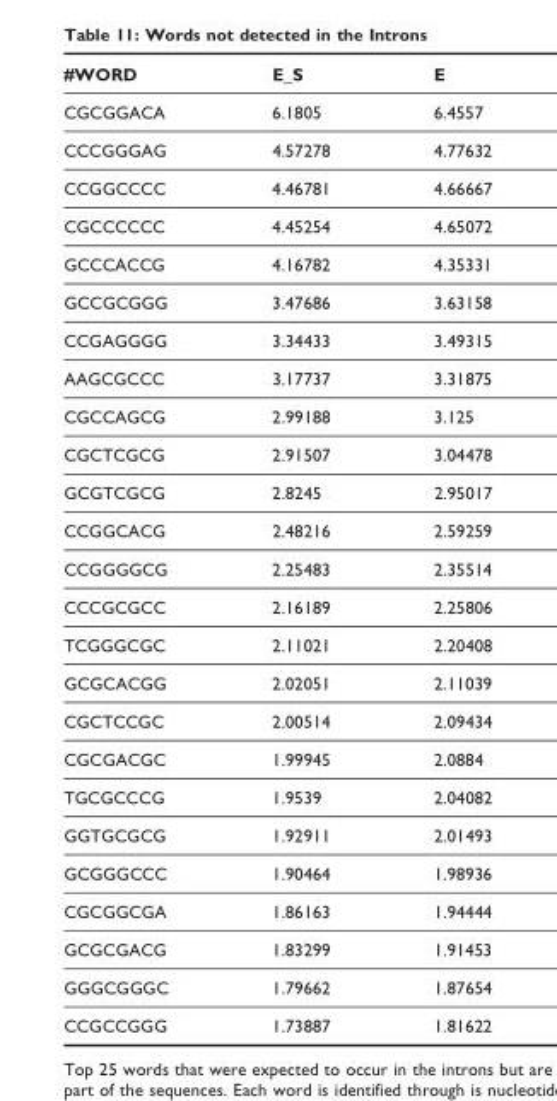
<table><thead><tr><td>#WORD</td><td>E_S</td><td>E</td></tr></thead><tbody><tr><td>CGCGGACA</td><td>6.1805</td><td>6.4557</td></tr><tr><td>CCCGGGAG</td><td>4.57278</td><td>4.77632</td></tr><tr><td>CCGGCCCC</td><td>4.46781</td><td>4.66667</td></tr><tr><td>CGCCCCCC</td><td>4.45254</td><td>4.65072</td></tr><tr><td>GCCCACCG</td><td>4.16782</td><td>4.35331</td></tr><tr><td>GCCGCGGG</td><td>3.47686</td><td>3.63158</td></tr><tr><td>CCGAGGGG</td><td>3.34433</td><td>3.49315</td></tr><tr><td>AAGCGCCC</td><td>3.17737</td><td>3.31875</td></tr><tr><td>CGCCAGCG</td><td>2.99188</td><td>3.125</td></tr><tr><td>CGCTCGCG</td><td>2.91507</td><td>3.04478</td></tr><tr><td>GCGTCGCG</td><td>2.8245</td><td>2.95017</td></tr><tr><td>CCGGCACG</td><td>2.48216</td><td>2.59259</td></tr><tr><td>CCGGGGCG</td><td>2.25483</td><td>2.35514</td></tr><tr><td>CCCGCGCC</td><td>2.16189</td><td>2.25806</td></tr><tr><td>TCGGGCGC</td><td>2.11021</td><td>2.20408</td></tr><tr><td>GCGCACGG</td><td>2.02051</td><td>2.11039</td></tr><tr><td>CGCTCCGC</td><td>2.00514</td><td>2.09434</td></tr><tr><td>CGCGACGC</td><td>1.99945</td><td>2.0884</td></tr><tr><td>TGCGCCCG</td><td>1.9539</td><td>2.04082</td></tr><tr><td>GGTGCGCG</td><td>1.92911</td><td>2.01493</td></tr><tr><td>GCGGGCCC</td><td>1.90464</td><td>1.98936</td></tr><tr><td>CGCGGCGA</td><td>1.86163</td><td>1.94444</td></tr><tr><td>GCGCGACG</td><td>1.83299</td><td>1.91453</td></tr><tr><td>GGGCGGGC</td><td>1.79662</td><td>1.87654</td></tr><tr><td>CCGCCGGG</td><td>1.73887</td><td>1.81622</td></tr></tbody></table>